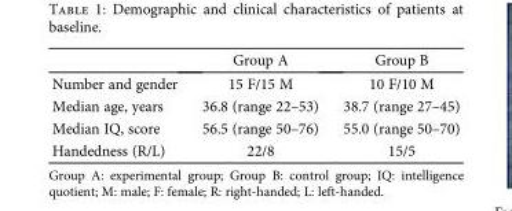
<table><thead><tr><td></td><td>Group A</td><td>Group B</td></tr></thead><tbody><tr><td>Number and gender</td><td>15 F/15 M</td><td>10 F/10 M</td></tr><tr><td>Median age, years</td><td>36.8 (range 22–53)</td><td>38.7 (range 27–45)</td></tr><tr><td>Median IQ, score</td><td>56.5 (range 50–76)</td><td>55.0 (range 50–70)</td></tr><tr><td>Handedness (R/L)</td><td>22/8</td><td>15/5</td></tr></tbody></table>